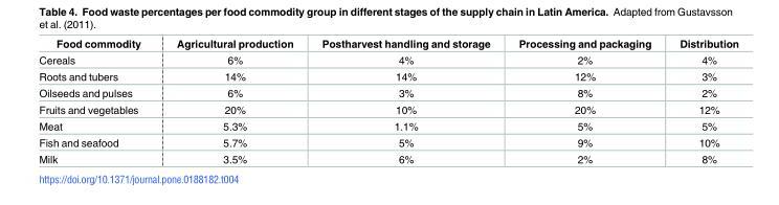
<table><thead><tr><td>Food commodity</td><td>Agricultural production</td><td>Postharvest handling and storage</td><td>Processing and packaging</td><td>Distribution</td></tr></thead><tbody><tr><td>Cereals</td><td>6%</td><td>4%</td><td>2%</td><td>4%</td></tr><tr><td>Roots and tubers</td><td>14%</td><td>14%</td><td>12%</td><td>3%</td></tr><tr><td>Oilseeds and pulses</td><td>6%</td><td>3%</td><td>8%</td><td>2%</td></tr><tr><td>Fruits and vegetables</td><td>20%</td><td>10%</td><td>20%</td><td>12%</td></tr><tr><td>Meat</td><td>5.3%</td><td>1.1%</td><td>5%</td><td>5%</td></tr><tr><td>Fish and seafood</td><td>5.7%</td><td>5%</td><td>9%</td><td>10%</td></tr><tr><td>Milk</td><td>3.5%</td><td>6%</td><td>2%</td><td>8%</td></tr></tbody></table>